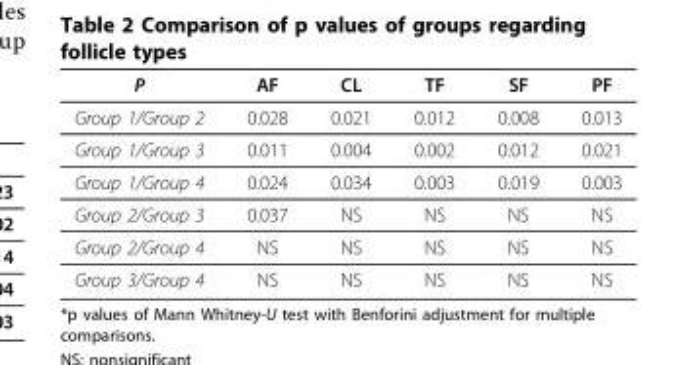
<table><thead><tr><td>P</td><td>AF</td><td>CL</td><td>TF</td><td>SF</td><td>PF</td></tr></thead><tbody><tr><td>Group 1/Group 2</td><td>0.028</td><td>0.021</td><td>0.012</td><td>0.008</td><td>0.013</td></tr><tr><td>Group 1/Group 3</td><td>0.011</td><td>0.004</td><td>0.002</td><td>0.012</td><td>0.021</td></tr><tr><td>Group 1/Group 4</td><td>0.024</td><td>0.034</td><td>0.003</td><td>0.019</td><td>0.003</td></tr><tr><td>Group 2/Group 3</td><td>0.037</td><td>NS</td><td>NS</td><td>NS</td><td>NS</td></tr><tr><td>Group 2/Group 4</td><td>NS</td><td>NS</td><td>NS</td><td>NS</td><td>NS</td></tr><tr><td>Group 3/Group 4</td><td>NS</td><td>NS</td><td>NS</td><td>NS</td><td>NS</td></tr></tbody></table>